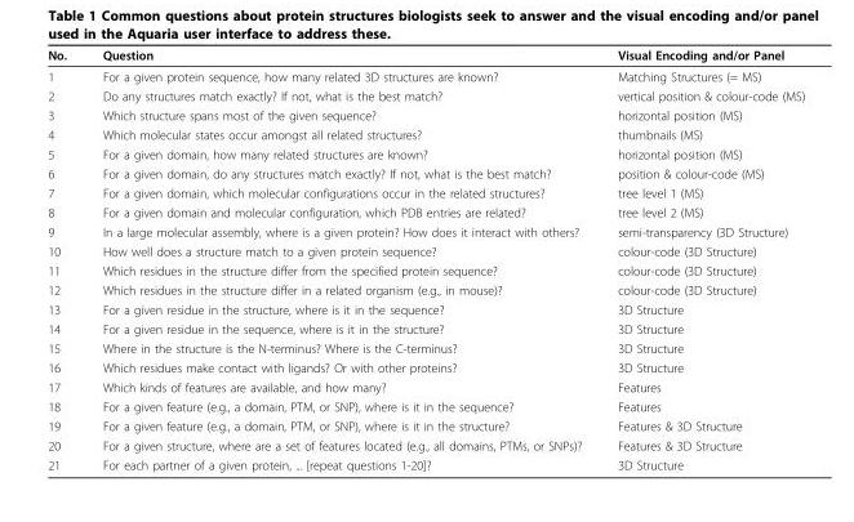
<table><thead><tr><td>No.</td><td>Question</td><td>Visual Encoding and/or Panel</td></tr></thead><tbody><tr><td>1</td><td>For a given protein sequence, how many related 3D structures are known?</td><td>Matching Structures (= MS)</td></tr><tr><td>2</td><td>Do any structures match exactly? If not, what is the best match?</td><td>vertical position &amp; colour-code (MS)</td></tr><tr><td>3</td><td>Which structure spans most of the given sequence?</td><td>horizontal position (MS)</td></tr><tr><td>4</td><td>Which molecular states occur amongst all related structures?</td><td>thumbnails (MS)</td></tr><tr><td>5</td><td>For a given domain, how many related structures are known?</td><td>horizontal position (MS)</td></tr><tr><td>6</td><td>For a given domain, do any structures match exactly? If not, what is the best match?</td><td>position &amp; colour-code (MS)</td></tr><tr><td>7</td><td>For a given domain, which molecular configurations occur in the related structures?</td><td>tree level 1 (MS)</td></tr><tr><td>8</td><td>For a given domain and molecular configuration, which PDB entries are related?</td><td>tree level 2 (MS)</td></tr><tr><td>9</td><td>In a large molecular assembly, where is a given protein? How does it interact with others?</td><td>semi-transparency (3D Structure)</td></tr><tr><td>10</td><td>How well does a structure match to a given protein sequence?</td><td>colour-code (3D Structure)</td></tr><tr><td>11</td><td>Which residues in the structure differ from the specified protein sequence?</td><td>colour-code (3D Structure)</td></tr><tr><td>12</td><td>Which residues in the structure differ in a related organism (e.g., in mouse)?</td><td>colour-code (3D Structure)</td></tr><tr><td>13</td><td>For a given residue in the structure, where is it in the sequence?</td><td>3D Structure</td></tr><tr><td>14</td><td>For a given residue in the sequence, where is it in the structure?</td><td>3D Structure</td></tr><tr><td>15</td><td>Where in the structure is the N-terminus? Where is the C-terminus?</td><td>3D Structure</td></tr><tr><td>16</td><td>Which residues make contact with ligands? Or with other proteins?</td><td>3D Structure</td></tr><tr><td>17</td><td>Which kinds of features are available, and how many?</td><td>Features</td></tr><tr><td>18</td><td>For a given feature (e.g., a domain, PTM, or SNP), where is it in the sequence?</td><td>Features</td></tr><tr><td>19</td><td>For a given feature (e.g., a domain, PTM, or SNP), where is it in the structure?</td><td>Features &amp; 3D Structure</td></tr><tr><td>20</td><td>For a given structure, where are a set of features located (e.g., all domains, PTMs, or SNPs)?</td><td>Features &amp; 3D Structure</td></tr><tr><td>21</td><td>For each partner of a given protein, ... [repeat questions 1-20]?</td><td>3D Structure</td></tr></tbody></table>